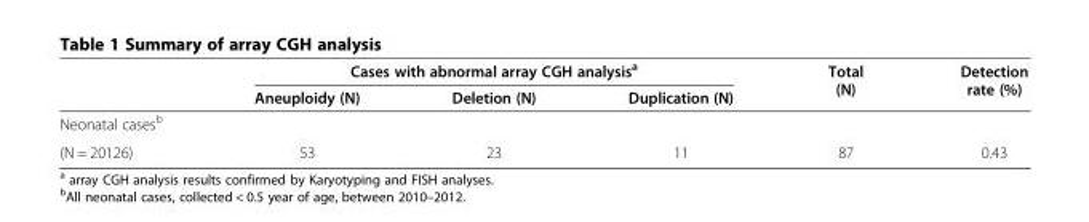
<table><thead><tr><td rowspan="2"></td><td colspan="3">Cases with abnormal array CGH analysis<sup>a</sup></td><td rowspan="2">Total (N)</td><td rowspan="2">Detection rate (%)</td></tr><tr><td>Aneuploidy (N)</td><td>Deletion (N)</td><td>Duplication (N)</td></tr></thead><tbody><tr><td colspan="6">Neonatal cases<sup>b</sup></td></tr><tr><td>(N = 20126)</td><td>53</td><td>23</td><td>11</td><td>87</td><td>0.43</td></tr></tbody></table>